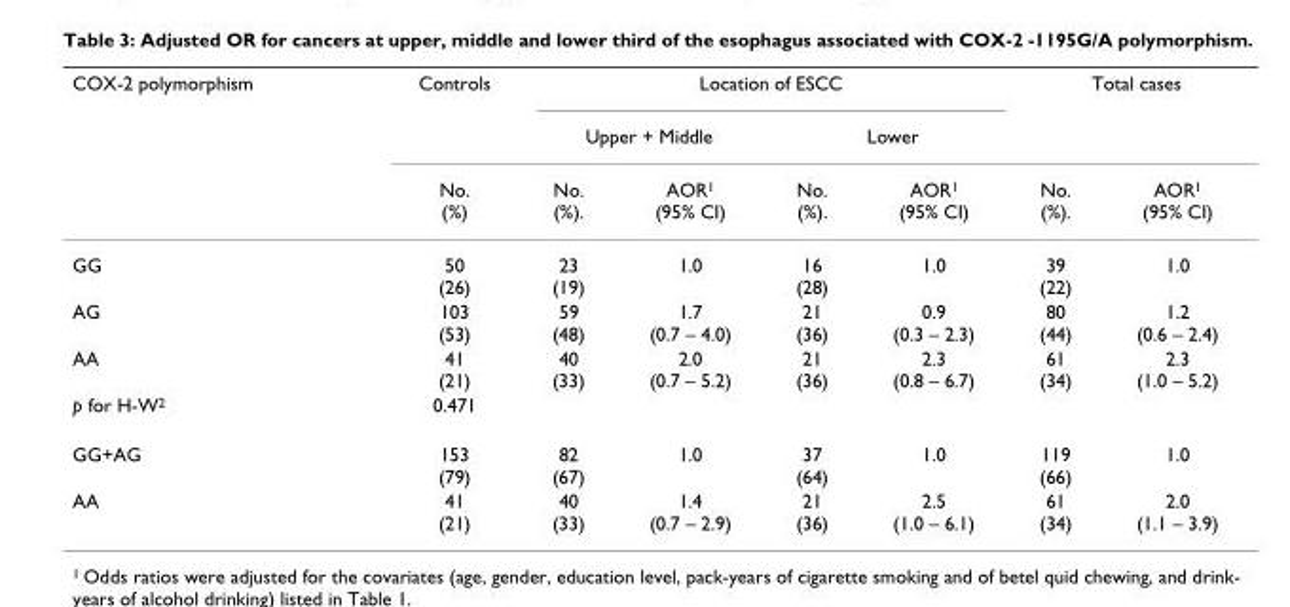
<table><thead><tr><td rowspan="3">COX-2 polymorphism</td><td rowspan="3">Controls No. (%)</td><td colspan="4">Location of ESCC</td><td colspan="2">Total cases</td></tr><tr><td colspan="2">Upper + Middle</td><td colspan="2">Lower</td><td rowspan="2">No. (%).</td><td rowspan="2">AOR<sup>1</sup> (95% CI)</td></tr><tr><td>No. (%).</td><td>AOR<sup>1</sup> (95% CI)</td><td>No. (%).</td><td>AOR<sup>1</sup> (95% CI)</td></tr></thead><tbody><tr><td>GG</td><td>50 (26)</td><td>23 (19)</td><td>1.0</td><td>16 (28)</td><td>1.0</td><td>39 (22)</td><td>1.0</td></tr><tr><td>AG</td><td>103 (53)</td><td>59 (48)</td><td>1.7 (0.7 – 4.0)</td><td>21 (36)</td><td>0.9 (0.3 – 2.3)</td><td>80 (44)</td><td>1.2 (0.6 – 2.4)</td></tr><tr><td>AA</td><td>41 (21)</td><td>40 (33)</td><td>2.0 (0.7 – 5.2)</td><td>21 (36)</td><td>2.3 (0.8 – 6.7)</td><td>61 (34)</td><td>2.3 (1.0 – 5.2)</td></tr><tr><td>p for H-W<sup>2</sup></td><td>0.471</td><td></td><td></td><td></td><td></td><td></td><td></td></tr><tr><td>GG+AG</td><td>153 (79)</td><td>82 (67)</td><td>1.0</td><td>37 (64)</td><td>1.0</td><td>119 (66)</td><td>1.0</td></tr><tr><td>AA</td><td>41 (21)</td><td>40 (33)</td><td>1.4 (0.7 – 2.9)</td><td>21 (36)</td><td>2.5 (1.0 – 6.1)</td><td>61 (34)</td><td>2.0 (1.1 – 3.9)</td></tr></tbody></table>